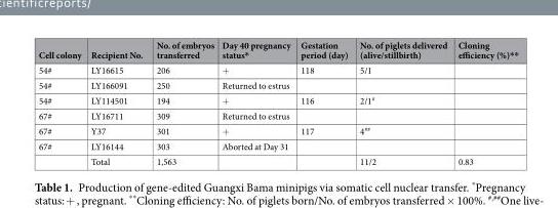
<table><thead><tr><td>Cell colony</td><td>Recipient No.</td><td>No. of embryos transferred</td><td>Day 40 pregnancy status*</td><td>Gestation period (day)</td><td>No. of piglets delivered (alive/stillbirth)</td><td>Cloning efficiency (%)**</td></tr></thead><tbody><tr><td>54#</td><td>LY16615</td><td>206</td><td>+</td><td>118</td><td>5/1</td><td></td></tr><tr><td>54#</td><td>LY166091</td><td>250</td><td>Returned to estrus</td><td></td><td></td><td></td></tr><tr><td>54#</td><td>LY114501</td><td>194</td><td>+</td><td>116</td><td>2/1<sup>#</sup></td><td></td></tr><tr><td>67#</td><td>LY16711</td><td>309</td><td>Returned to estrus</td><td></td><td></td><td></td></tr><tr><td>67#</td><td>Y37</td><td>301</td><td>+</td><td>117</td><td>4<sup>##</sup></td><td></td></tr><tr><td rowspan="2">67#</td><td>LY16144</td><td>303</td><td>Aborted at Day 31</td><td></td><td></td><td></td></tr><tr><td>Total</td><td>1,563</td><td></td><td></td><td>11/2</td><td>0.83</td></tr></tbody></table>